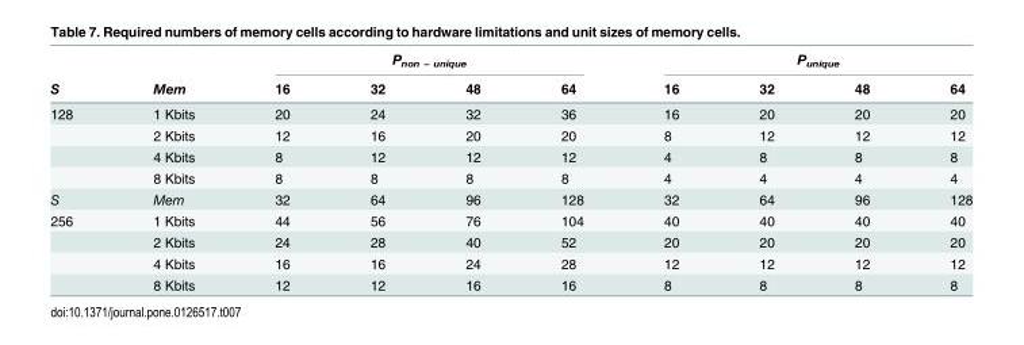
<table><thead><tr><td rowspan="2">S</td><td rowspan="2">Mem</td><td colspan="4">P<sub>non − unique</sub></td><td colspan="4">P<sub>unique</sub></td></tr><tr><td>16</td><td>32</td><td>48</td><td>64</td><td>16</td><td>32</td><td>48</td><td>64</td></tr></thead><tbody><tr><td rowspan="4">128</td><td>1 Kbits</td><td>20</td><td>24</td><td>32</td><td>36</td><td>16</td><td>20</td><td>20</td><td>20</td></tr><tr><td>2 Kbits</td><td>12</td><td>16</td><td>20</td><td>20</td><td>8</td><td>12</td><td>12</td><td>12</td></tr><tr><td>4 Kbits</td><td>8</td><td>12</td><td>12</td><td>12</td><td>4</td><td>8</td><td>8</td><td>8</td></tr><tr><td>8 Kbits</td><td>8</td><td>8</td><td>8</td><td>8</td><td>4</td><td>4</td><td>4</td><td>4</td></tr><tr><td>S</td><td>Mem</td><td>32</td><td>64</td><td>96</td><td>128</td><td>32</td><td>64</td><td>96</td><td>128</td></tr><tr><td rowspan="4">256</td><td>1 Kbits</td><td>44</td><td>56</td><td>76</td><td>104</td><td>40</td><td>40</td><td>40</td><td>40</td></tr><tr><td>2 Kbits</td><td>24</td><td>28</td><td>40</td><td>52</td><td>20</td><td>20</td><td>20</td><td>20</td></tr><tr><td>4 Kbits</td><td>16</td><td>16</td><td>24</td><td>28</td><td>12</td><td>12</td><td>12</td><td>12</td></tr><tr><td>8 Kbits</td><td>12</td><td>12</td><td>16</td><td>16</td><td>8</td><td>8</td><td>8</td><td>8</td></tr></tbody></table>